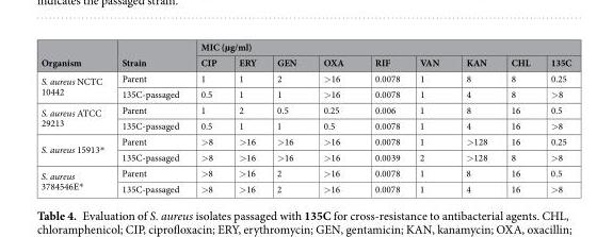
<table><thead><tr><td rowspan="2">Organism</td><td rowspan="2">Strain</td><td colspan="9">MIC (µg/ml)</td></tr><tr><td>CIP</td><td>ERY</td><td>GEN</td><td>OXA</td><td>RIF</td><td>VAN</td><td>KAN</td><td>CHL</td><td>135C</td></tr></thead><tbody><tr><td rowspan="2">S. aureus NCTC 10442</td><td>Parent</td><td>1</td><td>1</td><td>2</td><td>&gt;16</td><td>0.0078</td><td>1</td><td>8</td><td>8</td><td>0.25</td></tr><tr><td>135C-passaged</td><td>0.5</td><td>1</td><td>1</td><td>&gt;16</td><td>0.0078</td><td>1</td><td>4</td><td>8</td><td>&gt;8</td></tr><tr><td rowspan="2">S. aureus ATCC 29213</td><td>Parent</td><td>1</td><td>2</td><td>0.5</td><td>0.25</td><td>0.006</td><td>1</td><td>8</td><td>16</td><td>0.5</td></tr><tr><td>135C-passaged</td><td>0.5</td><td>1</td><td>1</td><td>0.5</td><td>0.0078</td><td>1</td><td>4</td><td>16</td><td>&gt;8</td></tr><tr><td rowspan="2">S. aureus 15913*</td><td>Parent</td><td>&gt;8</td><td>&gt;16</td><td>&gt;16</td><td>&gt;16</td><td>0.0078</td><td>1</td><td>&gt;128</td><td>16</td><td>0.25</td></tr><tr><td>135C-passaged</td><td>&gt;8</td><td>&gt;16</td><td>&gt;16</td><td>&gt;16</td><td>0.0039</td><td>2</td><td>&gt;128</td><td>8</td><td>&gt;8</td></tr><tr><td rowspan="2">S. aureus 3784546E*</td><td>Parent</td><td>&gt;8</td><td>&gt;16</td><td>2</td><td>&gt;16</td><td>0.0078</td><td>1</td><td>8</td><td>16</td><td>0.5</td></tr><tr><td>135C-passaged</td><td>&gt;8</td><td>&gt;16</td><td>2</td><td>&gt;16</td><td>0.0078</td><td>1</td><td>4</td><td>16</td><td>&gt;8</td></tr></tbody></table>